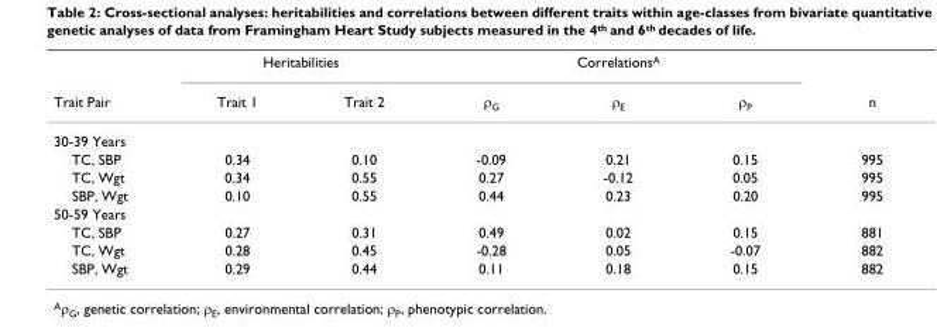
<table><thead><tr><td rowspan="2">Trait Pair</td><td colspan="2">Heritabilities</td><td colspan="3">CorrelationsA</td><td rowspan="2">n</td></tr><tr><td>Trait 1</td><td>Trait 2</td><td>ρG</td><td>ρE</td><td>ρP</td></tr></thead><tbody><tr><td colspan="7">30-39 Years</td></tr><tr><td>TC, SBP</td><td>0.34</td><td>0.10</td><td>-0.09</td><td>0.21</td><td>0.15</td><td>995</td></tr><tr><td>TC, Wgt</td><td>0.34</td><td>0.55</td><td>0.27</td><td>-0.12</td><td>0.05</td><td>995</td></tr><tr><td>SBP, Wgt</td><td>0.10</td><td>0.55</td><td>0.44</td><td>0.23</td><td>0.20</td><td>995</td></tr><tr><td colspan="7">50-59 Years</td></tr><tr><td>TC, SBP</td><td>0.27</td><td>0.31</td><td>0.49</td><td>0.02</td><td>0.15</td><td>881</td></tr><tr><td>TC, Wgt</td><td>0.28</td><td>0.45</td><td>-0.28</td><td>0.05</td><td>-0.07</td><td>882</td></tr><tr><td>SBP, Wgt</td><td>0.29</td><td>0.44</td><td>0.11</td><td>0.18</td><td>0.15</td><td>882</td></tr></tbody></table>